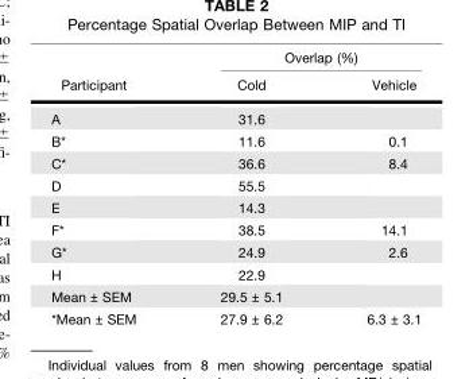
<table><thead><tr><td rowspan="2">Participant</td><td colspan="2">Overlap (%)</td></tr><tr><td>Cold</td><td>Vehicle</td></tr></thead><tbody><tr><td>A</td><td>31.6</td><td></td></tr><tr><td>B*</td><td>11.6</td><td>0.1</td></tr><tr><td>C*</td><td>36.6</td><td>8.4</td></tr><tr><td>D</td><td>55.5</td><td></td></tr><tr><td>E</td><td>14.3</td><td></td></tr><tr><td>F*</td><td>38.5</td><td>14.1</td></tr><tr><td>G*</td><td>24.9</td><td>2.6</td></tr><tr><td>H</td><td>22.9</td><td></td></tr><tr><td>Mean ± SEM</td><td>29.5 ± 5.1</td><td></td></tr><tr><td>*Mean ± SEM</td><td>27.9 ± 6.2</td><td>6.3 ± 3.1</td></tr></tbody></table>